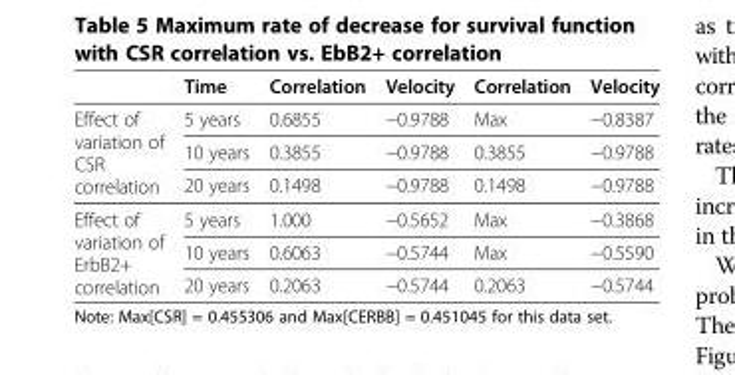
<table><thead><tr><td></td><td>Time</td><td>Correlation</td><td>Velocity</td><td>Correlation</td><td>Velocity</td></tr></thead><tbody><tr><td rowspan="3">Effect of variation of CSR correlation</td><td>5 years</td><td>0.6855</td><td>−0.9788</td><td>Max</td><td>−0.8387</td></tr><tr><td>10 years</td><td>0.3855</td><td>−0.9788</td><td>0.3855</td><td>−0.9788</td></tr><tr><td>20 years</td><td>0.1498</td><td>−0.9788</td><td>0.1498</td><td>−0.9788</td></tr><tr><td rowspan="3">Effect of variation of ErbB2+ correlation</td><td>5 years</td><td>1.000</td><td>−0.5652</td><td>Max</td><td>−0.3868</td></tr><tr><td>10 years</td><td>0.6063</td><td>−0.5744</td><td>Max</td><td>−0.5590</td></tr><tr><td>20 years</td><td>0.2063</td><td>−0.5744</td><td>0.2063</td><td>−0.5744</td></tr></tbody></table>